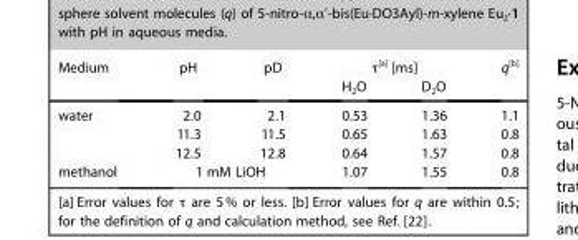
<table><thead><tr><td rowspan="2">Medium</td><td rowspan="2">pH</td><td rowspan="2">pD</td><td colspan="2">τ<sup>[a]</sup> [ms]</td><td rowspan="2">q<sup>[b]</sup></td></tr><tr><td>H<sub>2</sub>O</td><td>D<sub>2</sub>O</td></tr></thead><tbody><tr><td rowspan="3">water</td><td>2.0</td><td>2.1</td><td>0.53</td><td>1.36</td><td>1.1</td></tr><tr><td>11.3</td><td>11.5</td><td>0.65</td><td>1.63</td><td>0.8</td></tr><tr><td>12.5</td><td>12.8</td><td>0.64</td><td>1.57</td><td>0.8</td></tr><tr><td>methanol</td><td colspan="2">1 mM LiOH</td><td>1.07</td><td>1.55</td><td>0.8</td></tr></tbody></table>